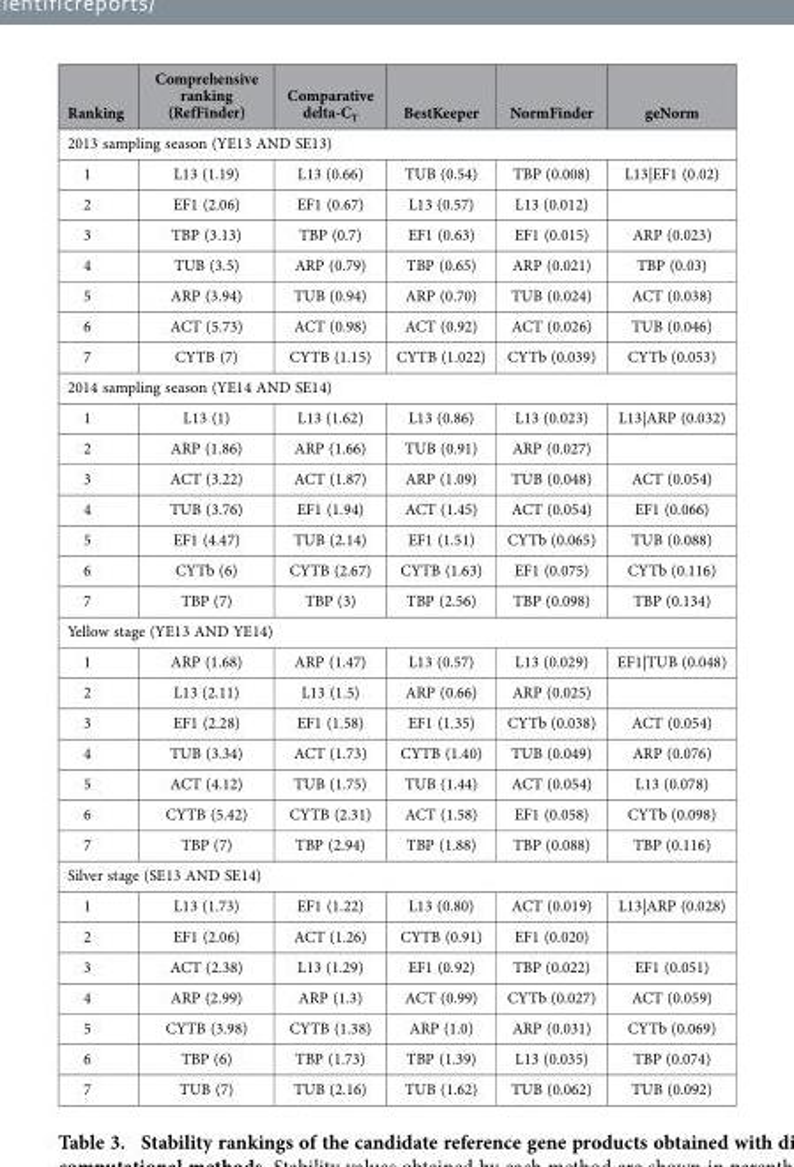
<table><thead><tr><td>Ranking</td><td>Comprehensive ranking (RefFinder)</td><td>Comparative delta-C<sub>T</sub></td><td>BestKeeper</td><td>NormFinder</td><td>geNorm</td></tr></thead><tbody><tr><td colspan="6">2013 sampling season (YE13 AND SE13)</td></tr><tr><td>1</td><td>L13 (1.19)</td><td>L13 (0.66)</td><td>TUB (0.54)</td><td>TBP (0.008)</td><td>L13|EF1 (0.02)</td></tr><tr><td>2</td><td>EF1 (2.06)</td><td>EF1 (0.67)</td><td>L13 (0.57)</td><td>L13 (0.012)</td><td></td></tr><tr><td>3</td><td>TBP (3.13)</td><td>TBP (0.7)</td><td>EF1 (0.63)</td><td>EF1 (0.015)</td><td>ARP (0.023)</td></tr><tr><td>4</td><td>TUB (3.5)</td><td>ARP (0.79)</td><td>TBP (0.65)</td><td>ARP (0.021)</td><td>TBP (0.03)</td></tr><tr><td>5</td><td>ARP (3.94)</td><td>TUB (0.94)</td><td>ARP (0.70)</td><td>TUB (0.024)</td><td>ACT (0.038)</td></tr><tr><td>6</td><td>ACT (5.73)</td><td>ACT (0.98)</td><td>ACT (0.92)</td><td>ACT (0.026)</td><td>TUB (0.046)</td></tr><tr><td>7</td><td>CYTB (7)</td><td>CYTB (1.15)</td><td>CYTB (1.022)</td><td>CYTb (0.039)</td><td>CYTb (0.053)</td></tr><tr><td colspan="6">2014 sampling season (YE14 AND SE14)</td></tr><tr><td>1</td><td>L13 (1)</td><td>L13 (1.62)</td><td>L13 (0.86)</td><td>L13 (0.023)</td><td>L13|ARP (0.032)</td></tr><tr><td>2</td><td>ARP (1.86)</td><td>ARP (1.66)</td><td>TUB (0.91)</td><td>ARP (0.027)</td><td></td></tr><tr><td>3</td><td>ACT (3.22)</td><td>ACT (1.87)</td><td>ARP (1.09)</td><td>TUB (0.048)</td><td>ACT (0.054)</td></tr><tr><td>4</td><td>TUB (3.76)</td><td>EF1 (1.94)</td><td>ACT (1.45)</td><td>ACT (0.054)</td><td>EF1 (0.066)</td></tr><tr><td>5</td><td>EF1 (4.47)</td><td>TUB (2.14)</td><td>EF1 (1.51)</td><td>CYTb (0.065)</td><td>TUB (0.088)</td></tr><tr><td>6</td><td>CYTb (6)</td><td>CYTB (2.67)</td><td>CYTB (1.63)</td><td>EF1 (0.075)</td><td>CYTb (0.116)</td></tr><tr><td>7</td><td>TBP (7)</td><td>TBP (3)</td><td>TBP (2.56)</td><td>TBP (0.098)</td><td>TBP (0.134)</td></tr><tr><td colspan="6">Yellow stage (YE13 AND YE14)</td></tr><tr><td>1</td><td>ARP (1.68)</td><td>ARP (1.47)</td><td>L13 (0.57)</td><td>L13 (0.029)</td><td>EF1|TUB (0.048)</td></tr><tr><td>2</td><td>L13 (2.11)</td><td>L13 (1.5)</td><td>ARP (0.66)</td><td>ARP (0.025)</td><td></td></tr><tr><td>3</td><td>EF1 (2.28)</td><td>EF1 (1.58)</td><td>EF1 (1.35)</td><td>CYTb (0.038)</td><td>ACT (0.054)</td></tr><tr><td>4</td><td>TUB (3.34)</td><td>ACT (1.73)</td><td>CYTB (1.40)</td><td>TUB (0.049)</td><td>ARP (0.076)</td></tr><tr><td>5</td><td>ACT (4.12)</td><td>TUB (1.75)</td><td>TUB (1.44)</td><td>ACT (0.054)</td><td>L13 (0.078)</td></tr><tr><td>6</td><td>CYTB (5.42)</td><td>CYTB (2.31)</td><td>ACT (1.58)</td><td>EF1 (0.058)</td><td>CYTb (0.098)</td></tr><tr><td>7</td><td>TBP (7)</td><td>TBP (2.94)</td><td>TBP (1.88)</td><td>TBP (0.088)</td><td>TBP (0.116)</td></tr><tr><td colspan="6">Silver stage (SE13 AND SE14)</td></tr><tr><td>1</td><td>L13 (1.73)</td><td>EF1 (1.22)</td><td>L13 (0.80)</td><td>ACT (0.019)</td><td>L13|ARP (0.028)</td></tr><tr><td>2</td><td>EF1 (2.06)</td><td>ACT (1.26)</td><td>CYTB (0.91)</td><td>EF1 (0.020)</td><td></td></tr><tr><td>3</td><td>ACT (2.38)</td><td>L13 (1.29)</td><td>EF1 (0.92)</td><td>TBP (0.022)</td><td>EF1 (0.051)</td></tr><tr><td>4</td><td>ARP (2.99)</td><td>ARP (1.3)</td><td>ACT (0.99)</td><td>CYTb (0.027)</td><td>ACT (0.059)</td></tr><tr><td>5</td><td>CYTB (3.98)</td><td>CYTB (1.38)</td><td>ARP (1.0)</td><td>ARP (0.031)</td><td>CYTb (0.069)</td></tr><tr><td>6</td><td>TBP (6)</td><td>TBP (1.73)</td><td>TBP (1.39)</td><td>L13 (0.035)</td><td>TBP (0.074)</td></tr><tr><td>7</td><td>TUB (7)</td><td>TUB (2.16)</td><td>TUB (1.62)</td><td>TUB (0.062)</td><td>TUB (0.092)</td></tr></tbody></table>